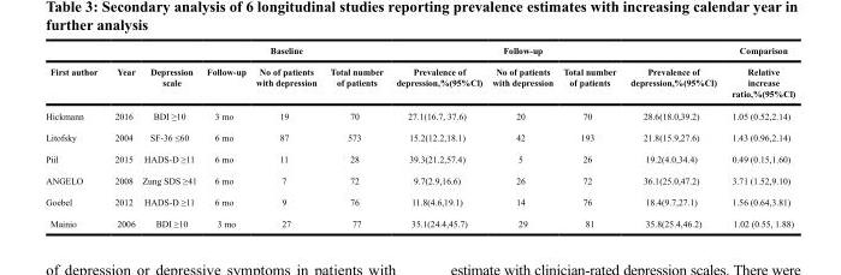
<table><thead><tr><td rowspan="2">First author</td><td rowspan="2">Year</td><td rowspan="2">Depression scale</td><td rowspan="2">Follow-up</td><td rowspan="2">Baseline No of patients with depression</td><td rowspan="2">Total number of patients</td><td rowspan="2">Prevalence of depression,%(95%Cl)</td><td rowspan="2">Follow-up No of patients with depression</td><td rowspan="2">Total number of patients</td><td rowspan="2">Prevalence of depression,%(95%Cl)</td><td rowspan="2">Comparison Relative increase ratio,%(95%Cl)</td></tr><tr></tr></thead><tbody><tr><td>Hickmann</td><td>2016</td><td>BDI ≥10</td><td>3 mo</td><td>19</td><td>70</td><td>27.1(16.7, 37.6)</td><td>20</td><td>70</td><td>28.6(18.0,39.2)</td><td>1.05 (0.52,2.14)</td></tr><tr><td>Litofsky</td><td>2004</td><td>SF-36 ≤60</td><td>6 mo</td><td>87</td><td>573</td><td>15.2(12.2,18.1)</td><td>42</td><td>193</td><td>21.8(15.9,27.6)</td><td>1.43 (0.96,2.14)</td></tr><tr><td>Piil</td><td>2015</td><td>HADS-D ≥11</td><td>6 mo</td><td>11</td><td>28</td><td>39.3(21.2,57.4)</td><td>5</td><td>26</td><td>19.2(4.0,34.4)</td><td>0.49 (0.15,1.60)</td></tr><tr><td>ANGELO</td><td>2008</td><td>Zung SDS ≥41</td><td>6 mo</td><td>7</td><td>72</td><td>9.7(2.9,16.6)</td><td>26</td><td>72</td><td>36.1(25.0,47.2)</td><td>3.71 (1.52,9.10)</td></tr><tr><td>Goebel</td><td>2012</td><td>HADS-D ≥11</td><td>6 mo</td><td>9</td><td>76</td><td>11.8(4.6,19.1)</td><td>14</td><td>76</td><td>18.4(9.7,27.1)</td><td>1.56 (0.64,3.81)</td></tr><tr><td>Mainio</td><td>2006</td><td>BDI ≥10</td><td>3 mo</td><td>27</td><td>77</td><td>35.1(24.4,45.7)</td><td>29</td><td>81</td><td>35.8(25.4,46.2)</td><td>1.02 (0.55, 1.88)</td></tr></tbody></table>